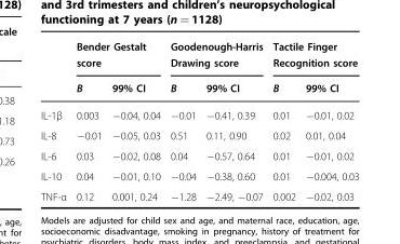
<table><thead><tr><td rowspan="2"></td><td colspan="2">Bender Gestalt score</td><td colspan="2">Goodenough-Harris Drawing score</td><td colspan="2">Tactile Finger Recognition score</td></tr><tr><td>B</td><td>99% CI</td><td>B</td><td>99% CI</td><td>B</td><td>99% CI</td></tr></thead><tbody><tr><td>IL-1β</td><td>0.003</td><td>−0.04, 0.04</td><td>−0.01</td><td>−0.41, 0.39</td><td>0.01</td><td>−0.01, 0.02</td></tr><tr><td>IL-8</td><td>−0.01</td><td>−0.05, 0.03</td><td>0.51</td><td>0.11, 0.90</td><td>0.02</td><td>0.01, 0.04</td></tr><tr><td>IL-6</td><td>0.03</td><td>−0.02, 0.08</td><td>0.04</td><td>−0.57, 0.64</td><td>0.01</td><td>−0.01, 0.02</td></tr><tr><td>IL-10</td><td>0.04</td><td>−0.01, 0.10</td><td>−0.04</td><td>−0.38, 0.60</td><td>0.01</td><td>−0.004, 0.03</td></tr><tr><td>TNF-α</td><td>0.12</td><td>0.001, 0.24</td><td>−1.28</td><td>−2.49, −0.07</td><td>0.002</td><td>−0.02, 0.03</td></tr></tbody></table>